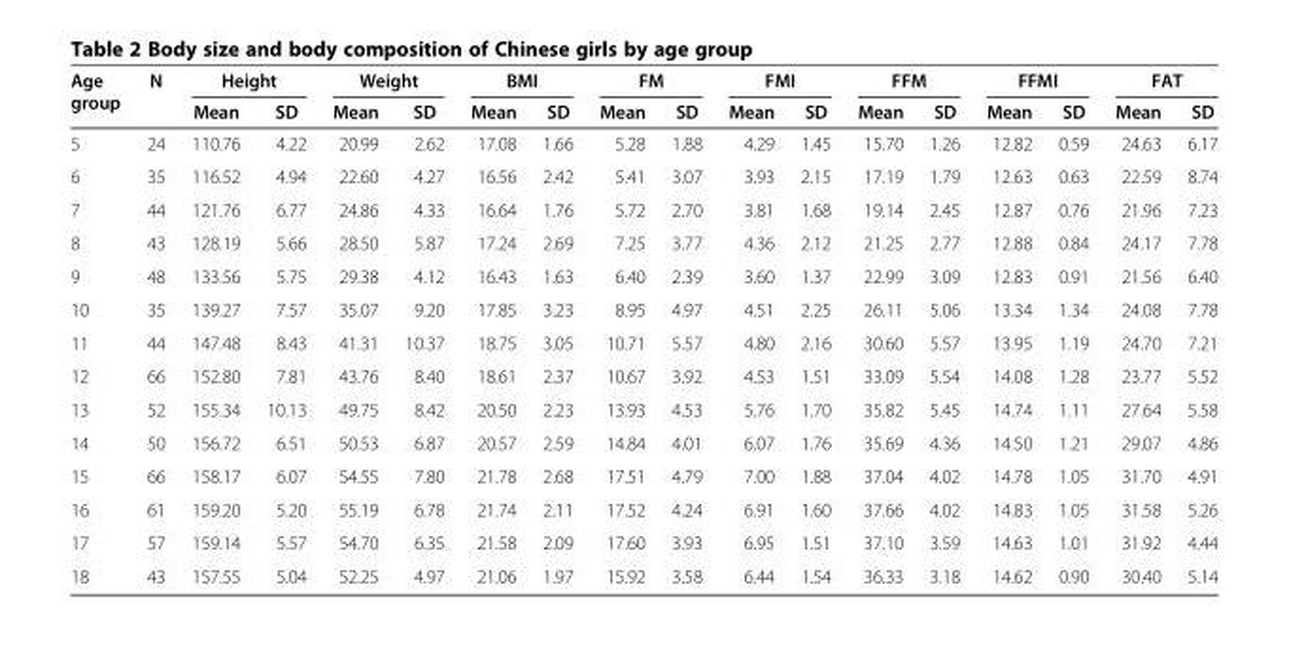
<table><thead><tr><td rowspan="2">Age group</td><td rowspan="2">N</td><td colspan="2">Height</td><td colspan="2">Weight</td><td colspan="2">BMI</td><td colspan="2">FM</td><td colspan="2">FMI</td><td colspan="2">FFM</td><td colspan="2">FFMI</td><td colspan="2">FAT</td></tr><tr><td>Mean</td><td>SD</td><td>Mean</td><td>SD</td><td>Mean</td><td>SD</td><td>Mean</td><td>SD</td><td>Mean</td><td>SD</td><td>Mean</td><td>SD</td><td>Mean</td><td>SD</td><td>Mean</td><td>SD</td></tr></thead><tbody><tr><td>5</td><td>24</td><td>110.76</td><td>4.22</td><td>20.99</td><td>2.62</td><td>17.08</td><td>1.66</td><td>5.28</td><td>1.88</td><td>4.29</td><td>1.45</td><td>15.70</td><td>1.26</td><td>12.82</td><td>0.59</td><td>24.63</td><td>6.17</td></tr><tr><td>6</td><td>35</td><td>116.52</td><td>4.94</td><td>22.60</td><td>4.27</td><td>16.56</td><td>2.42</td><td>5.41</td><td>3.07</td><td>3.93</td><td>2.15</td><td>17.19</td><td>1.79</td><td>12.63</td><td>0.63</td><td>22.59</td><td>8.74</td></tr><tr><td>7</td><td>44</td><td>121.76</td><td>6.77</td><td>24.86</td><td>4.33</td><td>16.64</td><td>1.76</td><td>5.72</td><td>2.70</td><td>3.81</td><td>1.68</td><td>19.14</td><td>2.45</td><td>12.87</td><td>0.76</td><td>21.96</td><td>7.23</td></tr><tr><td>8</td><td>43</td><td>128.19</td><td>5.66</td><td>28.50</td><td>5.87</td><td>17.24</td><td>2.69</td><td>7.25</td><td>3.77</td><td>4.36</td><td>2.12</td><td>21.25</td><td>2.77</td><td>12.88</td><td>0.84</td><td>24.17</td><td>7.78</td></tr><tr><td>9</td><td>48</td><td>133.56</td><td>5.75</td><td>29.38</td><td>4.12</td><td>16.43</td><td>1.63</td><td>6.40</td><td>2.39</td><td>3.60</td><td>1.37</td><td>22.99</td><td>3.09</td><td>12.83</td><td>0.91</td><td>21.56</td><td>6.40</td></tr><tr><td>10</td><td>35</td><td>139.27</td><td>7.57</td><td>35.07</td><td>9.20</td><td>17.85</td><td>3.23</td><td>8.95</td><td>4.97</td><td>4.51</td><td>2.25</td><td>26.11</td><td>5.06</td><td>13.34</td><td>1.34</td><td>24.08</td><td>7.78</td></tr><tr><td>11</td><td>44</td><td>147.48</td><td>8.43</td><td>41.31</td><td>10.37</td><td>18.75</td><td>3.05</td><td>10.71</td><td>5.57</td><td>4.80</td><td>2.16</td><td>30.60</td><td>5.57</td><td>13.95</td><td>1.19</td><td>24.70</td><td>7.21</td></tr><tr><td>12</td><td>66</td><td>152.80</td><td>7.81</td><td>43.76</td><td>8.40</td><td>18.61</td><td>2.37</td><td>10.67</td><td>3.92</td><td>4.53</td><td>1.51</td><td>33.09</td><td>5.54</td><td>14.08</td><td>1.28</td><td>23.77</td><td>5.52</td></tr><tr><td>13</td><td>52</td><td>155.34</td><td>10.13</td><td>49.75</td><td>8.42</td><td>20.50</td><td>2.23</td><td>13.93</td><td>4.53</td><td>5.76</td><td>1.70</td><td>35.82</td><td>5.45</td><td>14.74</td><td>1.11</td><td>27.64</td><td>5.58</td></tr><tr><td>14</td><td>50</td><td>156.72</td><td>6.51</td><td>50.53</td><td>6.87</td><td>20.57</td><td>2.59</td><td>14.84</td><td>4.01</td><td>6.07</td><td>1.76</td><td>35.69</td><td>4.36</td><td>14.50</td><td>1.21</td><td>29.07</td><td>4.86</td></tr><tr><td>15</td><td>66</td><td>158.17</td><td>6.07</td><td>54.55</td><td>7.80</td><td>21.78</td><td>2.68</td><td>17.51</td><td>4.79</td><td>7.00</td><td>1.88</td><td>37.04</td><td>4.02</td><td>14.78</td><td>1.05</td><td>31.70</td><td>4.91</td></tr><tr><td>16</td><td>61</td><td>159.20</td><td>5.20</td><td>55.19</td><td>6.78</td><td>21.74</td><td>2.11</td><td>17.52</td><td>4.24</td><td>6.91</td><td>1.60</td><td>37.66</td><td>4.02</td><td>14.83</td><td>1.05</td><td>31.58</td><td>5.26</td></tr><tr><td>17</td><td>57</td><td>159.14</td><td>5.57</td><td>54.70</td><td>6.35</td><td>21.58</td><td>2.09</td><td>17.60</td><td>3.93</td><td>6.95</td><td>1.51</td><td>37.10</td><td>3.59</td><td>14.63</td><td>1.01</td><td>31.92</td><td>4.44</td></tr><tr><td>18</td><td>43</td><td>157.55</td><td>5.04</td><td>52.25</td><td>4.97</td><td>21.06</td><td>1.97</td><td>15.92</td><td>3.58</td><td>6.44</td><td>1.54</td><td>36.33</td><td>3.18</td><td>14.62</td><td>0.90</td><td>30.40</td><td>5.14</td></tr></tbody></table>